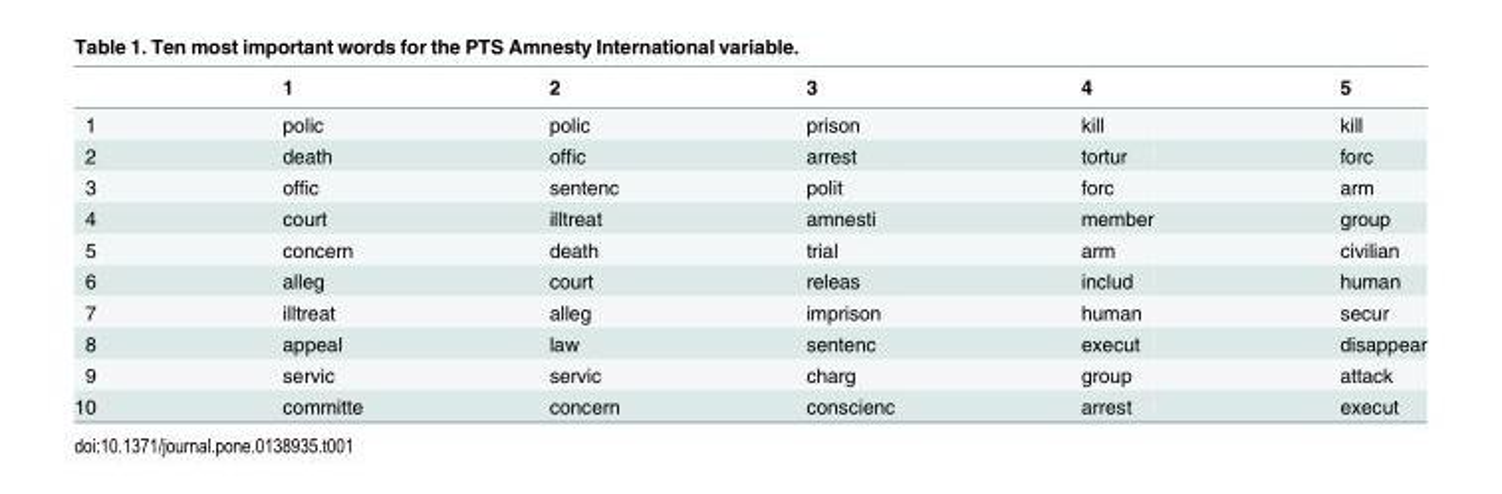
<table><thead><tr><td></td><td>1</td><td>2</td><td>3</td><td>4</td><td>5</td></tr></thead><tbody><tr><td>1</td><td>polic</td><td>polic</td><td>prison</td><td>kill</td><td>kill</td></tr><tr><td>2</td><td>death</td><td>offic</td><td>arrest</td><td>tortur</td><td>forc</td></tr><tr><td>3</td><td>offic</td><td>sentenc</td><td>polit</td><td>forc</td><td>arm</td></tr><tr><td>4</td><td>court</td><td>illtreat</td><td>amnesti</td><td>member</td><td>group</td></tr><tr><td>5</td><td>concern</td><td>death</td><td>trial</td><td>arm</td><td>civilian</td></tr><tr><td>6</td><td>alleg</td><td>court</td><td>releas</td><td>includ</td><td>human</td></tr><tr><td>7</td><td>illtreat</td><td>alleg</td><td>imprison</td><td>human</td><td>secur</td></tr><tr><td>8</td><td>appeal</td><td>law</td><td>sentenc</td><td>execut</td><td>disappear</td></tr><tr><td>9</td><td>servic</td><td>servic</td><td>charg</td><td>group</td><td>attack</td></tr><tr><td>10</td><td>committe</td><td>concern</td><td>conscienc</td><td>arrest</td><td>execut</td></tr></tbody></table>